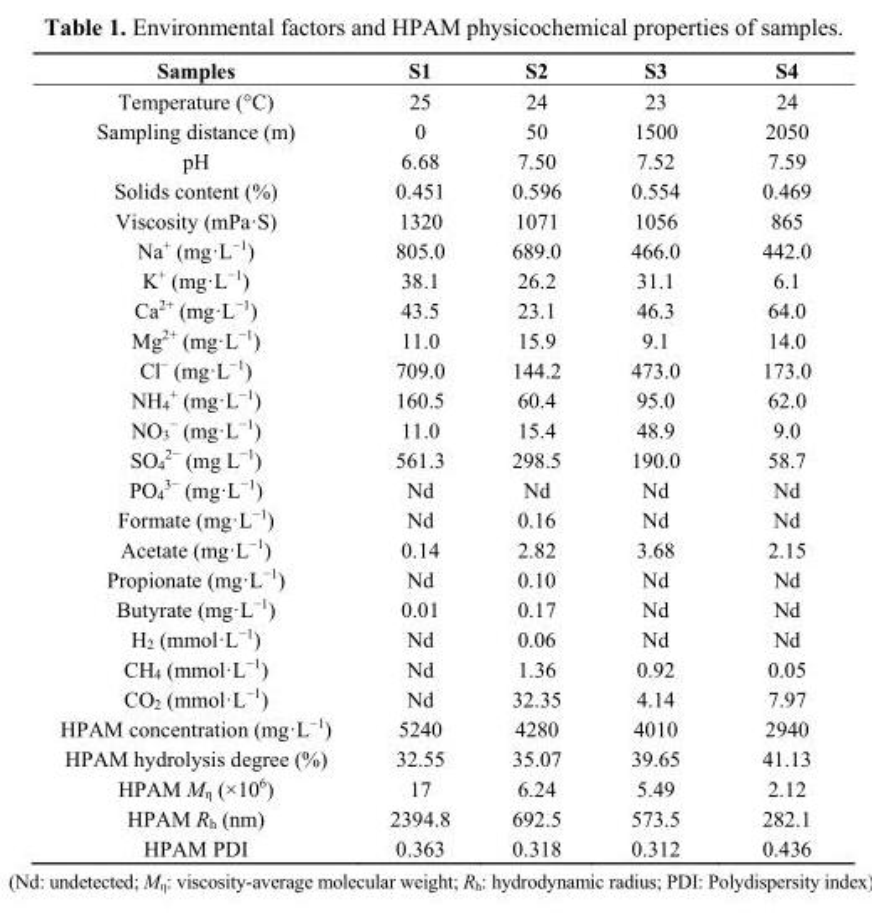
<table><thead><tr><td>Samples</td><td>S1</td><td>S2</td><td>S3</td><td>S4</td></tr></thead><tbody><tr><td>Temperature (°C)</td><td>25</td><td>24</td><td>23</td><td>24</td></tr><tr><td>Sampling distance (m)</td><td>0</td><td>50</td><td>1500</td><td>2050</td></tr><tr><td>pH</td><td>6.68</td><td>7.50</td><td>7.52</td><td>7.59</td></tr><tr><td>Solids content (%)</td><td>0.451</td><td>0.596</td><td>0.554</td><td>0.469</td></tr><tr><td>Viscosity (mPa·S)</td><td>1320</td><td>1071</td><td>1056</td><td>865</td></tr><tr><td>Na<sup>+</sup> (mg·L<sup>−1</sup>)</td><td>805.0</td><td>689.0</td><td>466.0</td><td>442.0</td></tr><tr><td>K<sup>+</sup> (mg·L<sup>−1</sup>)</td><td>38.1</td><td>26.2</td><td>31.1</td><td>6.1</td></tr><tr><td>Ca<sup>2+</sup> (mg·L<sup>−1</sup>)</td><td>43.5</td><td>23.1</td><td>46.3</td><td>64.0</td></tr><tr><td>Mg<sup>2+</sup> (mg·L<sup>−1</sup>)</td><td>11.0</td><td>15.9</td><td>9.1</td><td>14.0</td></tr><tr><td>Cl<sup>−</sup> (mg·L<sup>−1</sup>)</td><td>709.0</td><td>144.2</td><td>473.0</td><td>173.0</td></tr><tr><td>NH<sub>4</sub><sup>+</sup> (mg·L<sup>−1</sup>)</td><td>160.5</td><td>60.4</td><td>95.0</td><td>62.0</td></tr><tr><td>NO<sub>3</sub><sup>−</sup> (mg·L<sup>−1</sup>)</td><td>11.0</td><td>15.4</td><td>48.9</td><td>9.0</td></tr><tr><td>SO<sub>4</sub><sup>2−</sup> (mg L<sup>−1</sup>)</td><td>561.3</td><td>298.5</td><td>190.0</td><td>58.7</td></tr><tr><td>PO<sub>4</sub><sup>3−</sup> (mg·L<sup>−1</sup>)</td><td>Nd</td><td>Nd</td><td>Nd</td><td>Nd</td></tr><tr><td>Formate (mg·L<sup>−1</sup>)</td><td>Nd</td><td>0.16</td><td>Nd</td><td>Nd</td></tr><tr><td>Acetate (mg·L<sup>−1</sup>)</td><td>0.14</td><td>2.82</td><td>3.68</td><td>2.15</td></tr><tr><td>Propionate (mg·L<sup>−1</sup>)</td><td>Nd</td><td>0.10</td><td>Nd</td><td>Nd</td></tr><tr><td>Butyrate (mg·L<sup>−1</sup>)</td><td>0.01</td><td>0.17</td><td>Nd</td><td>Nd</td></tr><tr><td>H<sub>2</sub> (mmol·L<sup>−1</sup>)</td><td>Nd</td><td>0.06</td><td>Nd</td><td>Nd</td></tr><tr><td>CH<sub>4</sub> (mmol·L<sup>−1</sup>)</td><td>Nd</td><td>1.36</td><td>0.92</td><td>0.05</td></tr><tr><td>CO<sub>2</sub> (mmol·L<sup>−1</sup>)</td><td>Nd</td><td>32.35</td><td>4.14</td><td>7.97</td></tr><tr><td>HPAM concentration (mg·L<sup>−1</sup>)</td><td>5240</td><td>4280</td><td>4010</td><td>2940</td></tr><tr><td>HPAM hydrolysis degree (%)</td><td>32.55</td><td>35.07</td><td>39.65</td><td>41.13</td></tr><tr><td>HPAM M<sub>η</sub> (×10<sup>6</sup>)</td><td>17</td><td>6.24</td><td>5.49</td><td>2.12</td></tr><tr><td>HPAM R<sub>h</sub> (nm)</td><td>2394.8</td><td>692.5</td><td>573.5</td><td>282.1</td></tr><tr><td>HPAM PDI</td><td>0.363</td><td>0.318</td><td>0.312</td><td>0.436</td></tr></tbody></table>